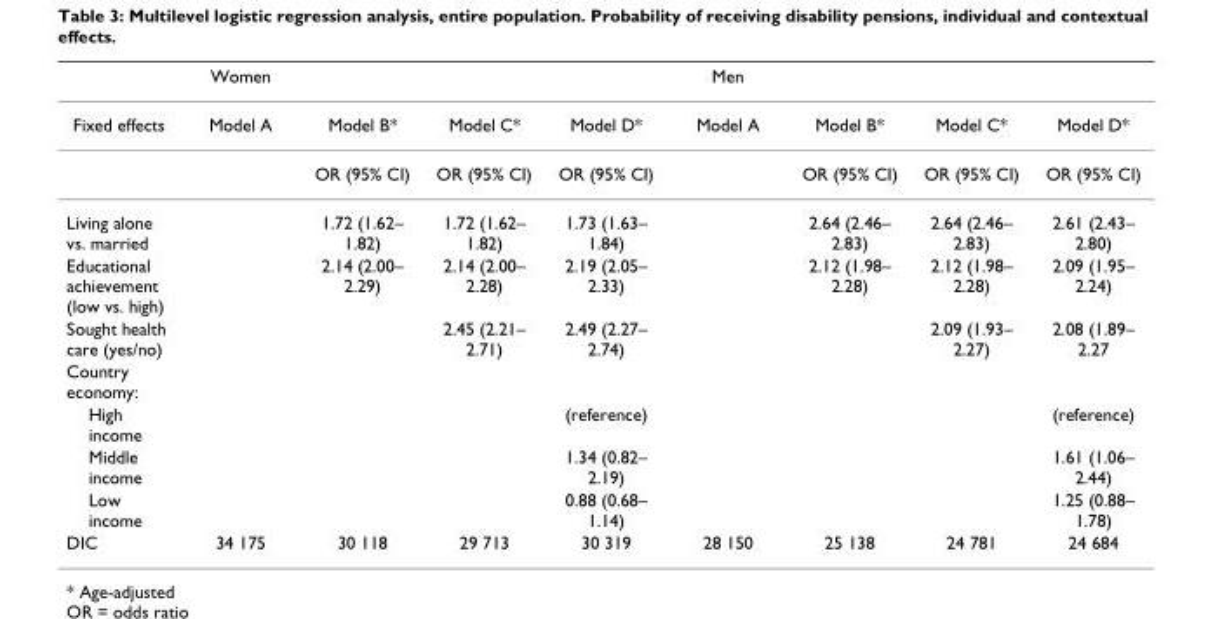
<table><thead><tr><td></td><td>Women</td><td></td><td></td><td></td><td>Men</td><td></td><td></td><td></td></tr></thead><tbody><tr><td rowspan="2">Fixed effects</td><td>Model A</td><td>Model B*</td><td>Model C*</td><td>Model D*</td><td>Model A</td><td>Model B*</td><td>Model C*</td><td>Model D*</td></tr><tr><td></td><td>OR (95% CI)</td><td>OR (95% CI)</td><td>OR (95% CI)</td><td></td><td>OR (95% CI)</td><td>OR (95% CI)</td><td>OR (95% CI)</td></tr><tr><td>Living alone vs. married</td><td></td><td>1.72 (1.62– 1.82)</td><td>1.72 (1.62– 1.82)</td><td>1.73 (1.63– 1.84)</td><td></td><td>2.64 (2.46– 2.83)</td><td>2.64 (2.46– 2.83)</td><td>2.61 (2.43– 2.80)</td></tr><tr><td>Educational achievement (low vs. high)</td><td></td><td>2.14 (2.00– 2.29)</td><td>2.14 (2.00– 2.28)</td><td>2.19 (2.05– 2.33)</td><td></td><td>2.12 (1.98– 2.28)</td><td>2.12 (1.98– 2.28)</td><td>2.09 (1.95– 2.24)</td></tr><tr><td>Sought health care (yes/no)</td><td></td><td></td><td>2.45 (2.21– 2.71)</td><td>2.49 (2.27– 2.74)</td><td></td><td></td><td>2.09 (1.93– 2.27)</td><td>2.08 (1.89– 2.27</td></tr><tr><td colspan="9">Country economy:</td></tr><tr><td>High income</td><td></td><td></td><td></td><td>(reference)</td><td></td><td></td><td></td><td>(reference)</td></tr><tr><td>Middle income</td><td></td><td></td><td></td><td>1.34 (0.82– 2.19)</td><td></td><td></td><td></td><td>1.61 (1.06– 2.44)</td></tr><tr><td>Low income</td><td></td><td></td><td></td><td>0.88 (0.68– 1.14)</td><td></td><td></td><td></td><td>1.25 (0.88– 1.78)</td></tr><tr><td>DIC</td><td>34 175</td><td>30 118</td><td>29 713</td><td>30 319</td><td>28 150</td><td>25 138</td><td>24 781</td><td>24 684</td></tr></tbody></table>